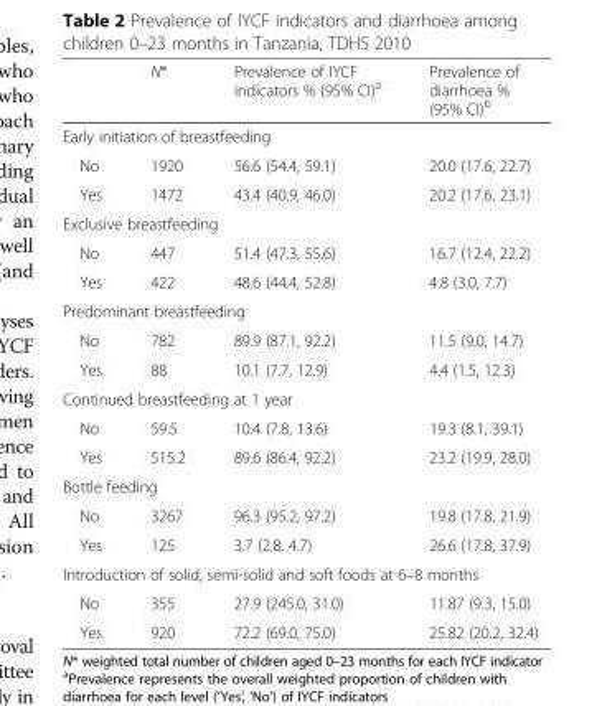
<table><thead><tr><td></td><td>N*</td><td>Prevalence of IYCF indicators % (95% CI)<sup>a</sup></td><td>Prevalence of diarrhoea % (95% CI)<sup>b</sup></td></tr></thead><tbody><tr><td colspan="4">Early initiation of breastfeeding</td></tr><tr><td>No</td><td>1920</td><td>56.6 (54.4, 59.1)</td><td>20.0 (17.6, 22.7)</td></tr><tr><td>Yes</td><td>1472</td><td>43.4 (40.9, 46.0)</td><td>20.2 (17.6, 23.1)</td></tr><tr><td colspan="4">Exclusive breastfeeding</td></tr><tr><td>No</td><td>447</td><td>51.4 (47.3, 55.6)</td><td>16.7 (12.4, 22.2)</td></tr><tr><td>Yes</td><td>422</td><td>48.6 (44.4, 52.8)</td><td>4.8 (3.0, 7.7)</td></tr><tr><td colspan="4">Predominant breastfeeding</td></tr><tr><td>No</td><td>782</td><td>89.9 (87.1, 92.2)</td><td>11.5 (9.0, 14.7)</td></tr><tr><td>Yes</td><td>88</td><td>10.1 (7.7, 12.9)</td><td>4.4 (1.5, 12.3)</td></tr><tr><td colspan="4">Continued breastfeeding at 1 year</td></tr><tr><td>No</td><td>59.5</td><td>10.4 (7.8, 13.6)</td><td>19.3 (8.1, 39.1)</td></tr><tr><td>Yes</td><td>515.2</td><td>89.6 (86.4, 92.2)</td><td>23.2 (19.9, 28.0)</td></tr><tr><td colspan="4">Bottle feeding</td></tr><tr><td>No</td><td>3267</td><td>96.3 (95.2, 97.2)</td><td>19.8 (17.8, 21.9)</td></tr><tr><td>Yes</td><td>125</td><td>3.7 (2.8, 4.7)</td><td>26.6 (17.8, 37.9)</td></tr><tr><td colspan="4">Introduction of solid, semi-solid and soft foods at 6–8 months</td></tr><tr><td>No</td><td>355</td><td>27.9 (245.0, 31.0)</td><td>11.87 (9.3, 15.0)</td></tr><tr><td>Yes</td><td>920</td><td>72.2 (69.0, 75.0)</td><td>25.82 (20.2, 32.4)</td></tr></tbody></table>